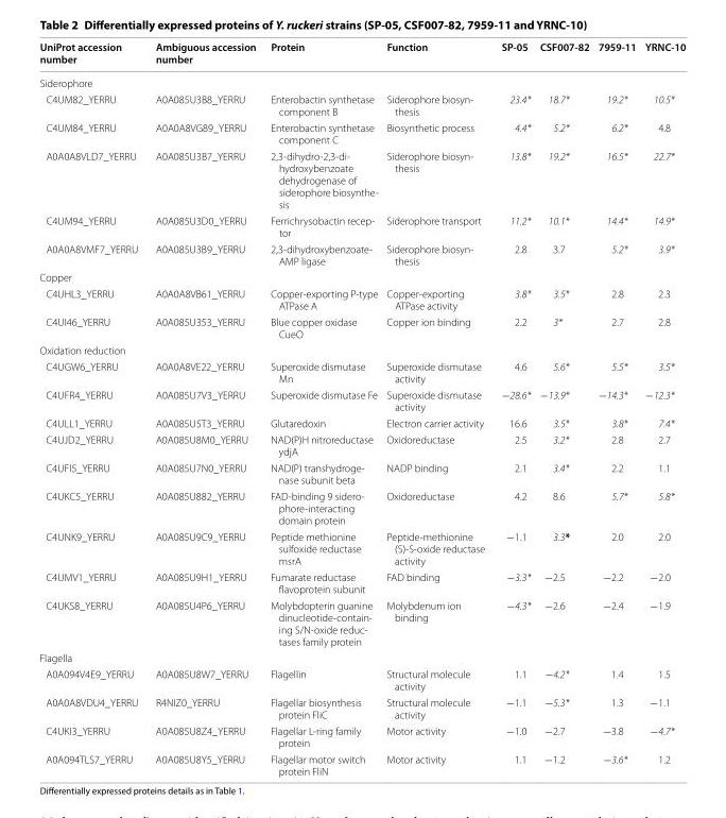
<table><thead><tr><td>UniProt accession number</td><td>Ambiguous accession number</td><td>Protein</td><td>Function</td><td>SP‑05</td><td>CSF007‑82</td><td>7959‑11</td><td>YRNC‑10</td></tr></thead><tbody><tr><td colspan="8">Siderophore</td></tr><tr><td>C4UM82_YERRU</td><td>A0A085U3B8_YERRU</td><td>Enterobactin synthetase component B</td><td>Siderophore biosyn‑ thesis</td><td>23.4*</td><td>18.7*</td><td>19.2*</td><td>10.5*</td></tr><tr><td>C4UM84_YERRU</td><td>A0A0A8VG89_YERRU</td><td>Enterobactin synthetase component C</td><td>Biosynthetic process</td><td>4.4*</td><td>5.2*</td><td>6.2*</td><td>4.8</td></tr><tr><td>A0A0A8VLD7_YERRU</td><td>A0A085U3B7_YERRU</td><td>2,3‑dihydro‑2,3‑di‑ hydroxybenzoate dehydrogenase of siderophore biosynthe‑ sis</td><td>Siderophore biosyn‑ thesis</td><td>13.8*</td><td>19.2*</td><td>16.5*</td><td>22.7*</td></tr><tr><td>C4UM94_YERRU</td><td>A0A085U3D0_YERRU</td><td>Ferrichrysobactin recep‑ tor</td><td>Siderophore transport</td><td>11.2*</td><td>10.1*</td><td>14.4*</td><td>14.9*</td></tr><tr><td>A0A0A8VMF7_YERRU</td><td>A0A085U3B9_YERRU</td><td>2,3‑dihydroxybenzoate‑ AMP ligase</td><td>Siderophore biosyn‑ thesis</td><td>2.8</td><td>3.7</td><td>5.2*</td><td>3.9*</td></tr><tr><td colspan="8">Copper</td></tr><tr><td>C4UHL3_YERRU</td><td>A0A0A8VB61_YERRU</td><td>Copper‑exporting P‑type ATPase A</td><td>Copper‑exporting ATPase activity</td><td>3.8*</td><td>3.5*</td><td>2.8</td><td>2.3</td></tr><tr><td>C4UI46_YERRU</td><td>A0A085U353_YERRU</td><td>Blue copper oxidase CueO</td><td>Copper ion binding</td><td>2.2</td><td>3*</td><td>2.7</td><td>2.8</td></tr><tr><td colspan="8">Oxidation reduction</td></tr><tr><td>C4UGW6_YERRU</td><td>A0A0A8VE22_YERRU</td><td>Superoxide dismutase Mn</td><td>Superoxide dismutase activity</td><td>4.6</td><td>5.6*</td><td>5.5*</td><td>3.5*</td></tr><tr><td>C4UFR4_YERRU</td><td>A0A085U7V3_YERRU</td><td>Superoxide dismutase Fe</td><td>Superoxide dismutase activity</td><td>−28.6*</td><td>−13.9*</td><td>−14.3*</td><td>−12.3*</td></tr><tr><td>C4ULL1_YERRU</td><td>A0A085U5T3_YERRU</td><td>Glutaredoxin</td><td>Electron carrier activity</td><td>16.6</td><td>3.5*</td><td>3.8*</td><td>7.4*</td></tr><tr><td>C4UJD2_YERRU</td><td>A0A085U8M0_YERRU</td><td>NAD(P)H nitroreductase ydjA</td><td>Oxidoreductase</td><td>2.5</td><td>3.2*</td><td>2.8</td><td>2.7</td></tr><tr><td>C4UFI5_YERRU</td><td>A0A085U7N0_YERRU</td><td>NAD(P) transhydroge‑ nase subunit beta</td><td>NADP binding</td><td>2.1</td><td>3.4*</td><td>2.2</td><td>1.1</td></tr><tr><td>C4UKC5_YERRU</td><td>A0A085U882_YERRU</td><td>FAD‑binding 9 sidero‑ phore‑interacting domain protein</td><td>Oxidoreductase</td><td>4.2</td><td>8.6</td><td>5.7*</td><td>5.8*</td></tr><tr><td>C4UNK9_YERRU</td><td>A0A085U9C9_YERRU</td><td>Peptide methionine sulfoxide reductase msrA</td><td>Peptide‑methionine (S)‑S‑oxide reductase activity</td><td>−1.1</td><td>3.3*</td><td>2.0</td><td>2.0</td></tr><tr><td>C4UMV1_YERRU</td><td>A0A085U9H1_YERRU</td><td>Fumarate reductase flavoprotein subunit</td><td>FAD binding</td><td>−3.3*</td><td>−2.5</td><td>−2.2</td><td>−2.0</td></tr><tr><td>C4UKS8_YERRU</td><td>A0A085U4P6_YERRU</td><td>Molybdopterin guanine dinucleotide‑contain‑ ing S/N‑oxide reduc‑ tases family protein</td><td>Molybdenum ion binding</td><td>−4.3*</td><td>−2.6</td><td>−2.4</td><td>−1.9</td></tr><tr><td colspan="8">Flagella</td></tr><tr><td>A0A094V4E9_YERRU</td><td>A0A085U8W7_YERRU</td><td>Flagellin</td><td>Structural molecule activity</td><td>1.1</td><td>−4.2*</td><td>1.4</td><td>1.5</td></tr><tr><td>A0A0A8VDU4_YERRU</td><td>R4NIZ0_YERRU</td><td>Flagellar biosynthesis protein FliC</td><td>Structural molecule activity</td><td>−1.1</td><td>−5.3*</td><td>1.3</td><td>−1.1</td></tr><tr><td>C4UKI3_YERRU</td><td>A0A085U8Z4_YERRU</td><td>Flagellar L‑ring family protein</td><td>Motor activity</td><td>−1.0</td><td>−2.7</td><td>−3.8</td><td>−4.7*</td></tr><tr><td>A0A094TLS7_YERRU</td><td>A0A085U8Y5_YERRU</td><td>Flagellar motor switch protein FliN</td><td>Motor activity</td><td>1.1</td><td>−1.2</td><td>−3.6*</td><td>1.2</td></tr></tbody></table>